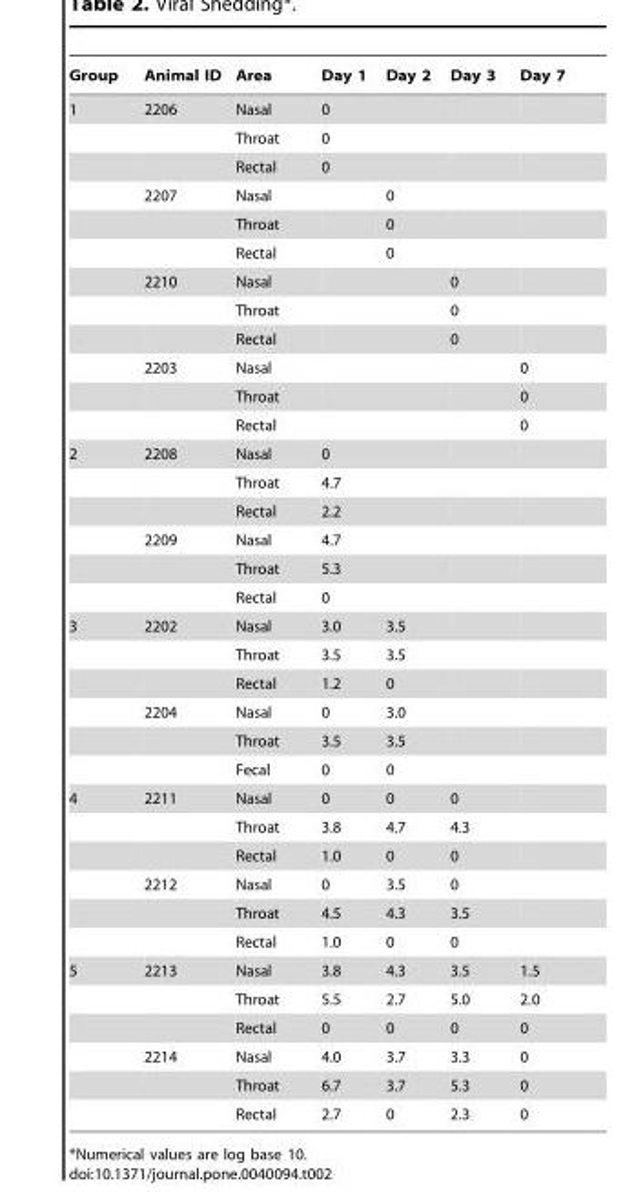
<table><thead><tr><td>Group</td><td>Animal ID</td><td>Area</td><td>Day 1</td><td>Day 2</td><td>Day 3</td><td>Day 7</td></tr></thead><tbody><tr><td rowspan="12">1</td><td>2206</td><td>Nasal</td><td>0</td><td></td><td></td><td></td></tr><tr><td></td><td>Throat</td><td>0</td><td></td><td></td><td></td></tr><tr><td></td><td>Rectal</td><td>0</td><td></td><td></td><td></td></tr><tr><td>2207</td><td>Nasal</td><td></td><td>0</td><td></td><td></td></tr><tr><td></td><td>Throat</td><td></td><td>0</td><td></td><td></td></tr><tr><td></td><td>Rectal</td><td></td><td>0</td><td></td><td></td></tr><tr><td>2210</td><td>Nasal</td><td></td><td></td><td>0</td><td></td></tr><tr><td></td><td>Throat</td><td></td><td></td><td>0</td><td></td></tr><tr><td></td><td>Rectal</td><td></td><td></td><td>0</td><td></td></tr><tr><td>2203</td><td>Nasal</td><td></td><td></td><td></td><td>0</td></tr><tr><td></td><td>Throat</td><td></td><td></td><td></td><td>0</td></tr><tr><td></td><td>Rectal</td><td></td><td></td><td></td><td>0</td></tr><tr><td rowspan="6">2</td><td>2208</td><td>Nasal</td><td>0</td><td></td><td></td><td></td></tr><tr><td></td><td>Throat</td><td>4.7</td><td></td><td></td><td></td></tr><tr><td></td><td>Rectal</td><td>2.2</td><td></td><td></td><td></td></tr><tr><td>2209</td><td>Nasal</td><td>4.7</td><td></td><td></td><td></td></tr><tr><td></td><td>Throat</td><td>5.3</td><td></td><td></td><td></td></tr><tr><td></td><td>Rectal</td><td>0</td><td></td><td></td><td></td></tr><tr><td rowspan="6">3</td><td>2202</td><td>Nasal</td><td>3.0</td><td>3.5</td><td></td><td></td></tr><tr><td></td><td>Throat</td><td>3.5</td><td>3.5</td><td></td><td></td></tr><tr><td></td><td>Rectal</td><td>1.2</td><td>0</td><td></td><td></td></tr><tr><td>2204</td><td>Nasal</td><td>0</td><td>3.0</td><td></td><td></td></tr><tr><td></td><td>Throat</td><td>3.5</td><td>3.5</td><td></td><td></td></tr><tr><td></td><td>Fecal</td><td>0</td><td>0</td><td></td><td></td></tr><tr><td rowspan="6">4</td><td>2211</td><td>Nasal</td><td>0</td><td>0</td><td>0</td><td></td></tr><tr><td></td><td>Throat</td><td>3.8</td><td>4.7</td><td>4.3</td><td></td></tr><tr><td></td><td>Rectal</td><td>1.0</td><td>0</td><td>0</td><td></td></tr><tr><td>2212</td><td>Nasal</td><td>0</td><td>3.5</td><td>0</td><td></td></tr><tr><td></td><td>Throat</td><td>4.5</td><td>4.3</td><td>3.5</td><td></td></tr><tr><td></td><td>Rectal</td><td>1.0</td><td>0</td><td>0</td><td></td></tr><tr><td rowspan="6">5</td><td>2213</td><td>Nasal</td><td>3.8</td><td>4.3</td><td>3.5</td><td>1.5</td></tr><tr><td></td><td>Throat</td><td>5.5</td><td>2.7</td><td>5.0</td><td>2.0</td></tr><tr><td></td><td>Rectal</td><td>0</td><td>0</td><td>0</td><td>0</td></tr><tr><td>2214</td><td>Nasal</td><td>4.0</td><td>3.7</td><td>3.3</td><td>0</td></tr><tr><td></td><td>Throat</td><td>6.7</td><td>3.7</td><td>5.3</td><td>0</td></tr><tr><td></td><td>Rectal</td><td>2.7</td><td>0</td><td>2.3</td><td>0</td></tr></tbody></table>